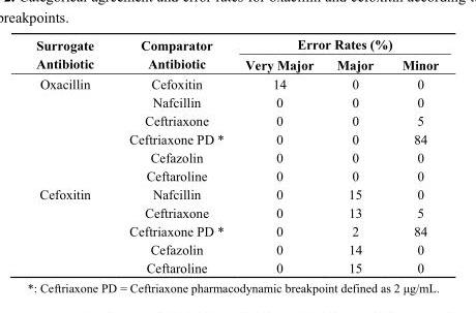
<table><thead><tr><td rowspan="2">Surrogate Antibiotic</td><td rowspan="2">Comparator Antibiotic</td><td colspan="3">Error Rates (%)</td></tr><tr><td>Very Major</td><td>Major</td><td>Minor</td></tr></thead><tbody><tr><td rowspan="6">Oxacillin</td><td>Cefoxitin</td><td>14</td><td>0</td><td>0</td></tr><tr><td>Nafcillin</td><td>0</td><td>0</td><td>0</td></tr><tr><td>Ceftriaxone</td><td>0</td><td>0</td><td>5</td></tr><tr><td>Ceftriaxone PD *</td><td>0</td><td>0</td><td>84</td></tr><tr><td>Cefazolin</td><td>0</td><td>0</td><td>0</td></tr><tr><td>Ceftaroline</td><td>0</td><td>0</td><td>0</td></tr><tr><td rowspan="5">Cefoxitin</td><td>Nafcillin</td><td>0</td><td>15</td><td>0</td></tr><tr><td>Ceftriaxone</td><td>0</td><td>13</td><td>5</td></tr><tr><td>Ceftriaxone PD *</td><td>0</td><td>2</td><td>84</td></tr><tr><td>Cefazolin</td><td>0</td><td>14</td><td>0</td></tr><tr><td>Ceftaroline</td><td>0</td><td>15</td><td>0</td></tr></tbody></table>